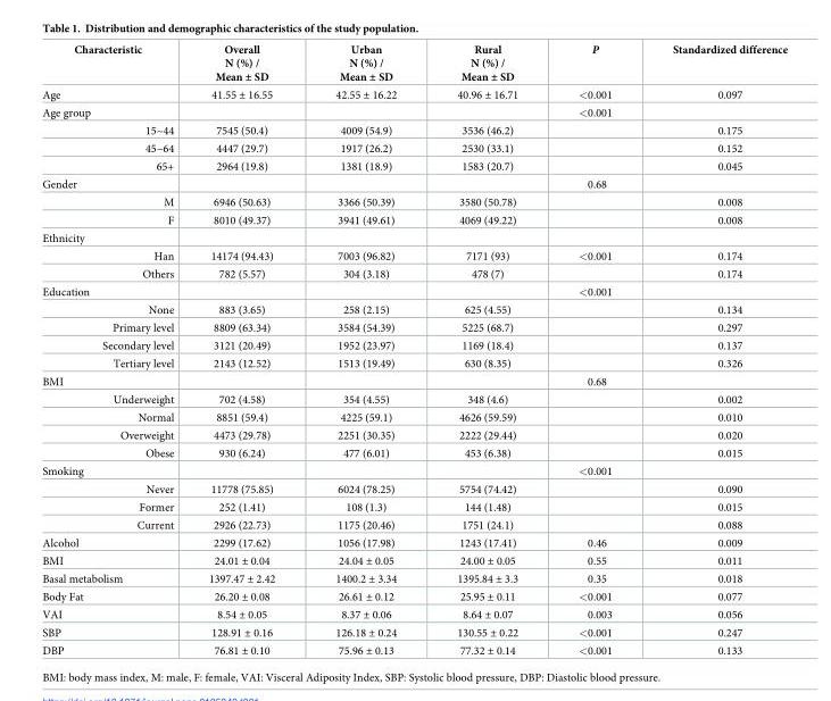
<table><thead><tr><td>Characteristic</td><td>Overall N (%) / Mean ± SD</td><td>Urban N (%) / Mean ± SD</td><td>Rural N (%) / Mean ± SD</td><td>P</td><td>Standardized difference</td></tr></thead><tbody><tr><td>Age</td><td>41.55 ± 16.55</td><td>42.55 ± 16.22</td><td>40.96 ± 16.71</td><td>&lt;0.001</td><td>0.097</td></tr><tr><td>Age group</td><td></td><td></td><td></td><td>&lt;0.001</td><td></td></tr><tr><td>15~44</td><td>7545 (50.4)</td><td>4009 (54.9)</td><td>3536 (46.2)</td><td></td><td>0.175</td></tr><tr><td>45~64</td><td>4447 (29.7)</td><td>1917 (26.2)</td><td>2530 (33.1)</td><td></td><td>0.152</td></tr><tr><td>65+</td><td>2964 (19.8)</td><td>1381 (18.9)</td><td>1583 (20.7)</td><td></td><td>0.045</td></tr><tr><td>Gender</td><td></td><td></td><td></td><td>0.68</td><td></td></tr><tr><td>M</td><td>6946 (50.63)</td><td>3366 (50.39)</td><td>3580 (50.78)</td><td></td><td>0.008</td></tr><tr><td>F</td><td>8010 (49.37)</td><td>3941 (49.61)</td><td>4069 (49.22)</td><td></td><td>0.008</td></tr><tr><td colspan="6">Ethnicity</td></tr><tr><td>Han</td><td>14174 (94.43)</td><td>7003 (96.82)</td><td>7171 (93)</td><td>&lt;0.001</td><td>0.174</td></tr><tr><td>Others</td><td>782 (5.57)</td><td>304 (3.18)</td><td>478 (7)</td><td></td><td>0.174</td></tr><tr><td>Education</td><td></td><td></td><td></td><td>&lt;0.001</td><td></td></tr><tr><td>None</td><td>883 (3.65)</td><td>258 (2.15)</td><td>625 (4.55)</td><td></td><td>0.134</td></tr><tr><td>Primary level</td><td>8809 (63.34)</td><td>3584 (54.39)</td><td>5225 (68.7)</td><td></td><td>0.297</td></tr><tr><td>Secondary level</td><td>3121 (20.49)</td><td>1952 (23.97)</td><td>1169 (18.4)</td><td></td><td>0.137</td></tr><tr><td>Tertiary level</td><td>2143 (12.52)</td><td>1513 (19.49)</td><td>630 (8.35)</td><td></td><td>0.326</td></tr><tr><td>BMI</td><td></td><td></td><td></td><td>0.68</td><td></td></tr><tr><td>Underweight</td><td>702 (4.58)</td><td>354 (4.55)</td><td>348 (4.6)</td><td></td><td>0.002</td></tr><tr><td>Normal</td><td>8851 (59.4)</td><td>4225 (59.1)</td><td>4626 (59.59)</td><td></td><td>0.010</td></tr><tr><td>Overweight</td><td>4473 (29.78)</td><td>2251 (30.35)</td><td>2222 (29.44)</td><td></td><td>0.020</td></tr><tr><td>Obese</td><td>930 (6.24)</td><td>477 (6.01)</td><td>453 (6.38)</td><td></td><td>0.015</td></tr><tr><td>Smoking</td><td></td><td></td><td></td><td>&lt;0.001</td><td></td></tr><tr><td>Never</td><td>11778 (75.85)</td><td>6024 (78.25)</td><td>5754 (74.42)</td><td></td><td>0.090</td></tr><tr><td>Former</td><td>252 (1.41)</td><td>108 (1.3)</td><td>144 (1.48)</td><td></td><td>0.015</td></tr><tr><td>Current</td><td>2926 (22.73)</td><td>1175 (20.46)</td><td>1751 (24.1)</td><td></td><td>0.088</td></tr><tr><td>Alcohol</td><td>2299 (17.62)</td><td>1056 (17.98)</td><td>1243 (17.41)</td><td>0.46</td><td>0.009</td></tr><tr><td>BMI</td><td>24.01 ± 0.04</td><td>24.04 ± 0.05</td><td>24.00 ± 0.05</td><td>0.55</td><td>0.011</td></tr><tr><td>Basal metabolism</td><td>1397.47 ± 2.42</td><td>1400.2 ± 3.34</td><td>1395.84 ± 3.3</td><td>0.35</td><td>0.018</td></tr><tr><td>Body Fat</td><td>26.20 ± 0.08</td><td>26.61 ± 0.12</td><td>25.95 ± 0.11</td><td>&lt;0.001</td><td>0.077</td></tr><tr><td>VAI</td><td>8.54 ± 0.05</td><td>8.37 ± 0.06</td><td>8.64 ± 0.07</td><td>0.003</td><td>0.056</td></tr><tr><td>SBP</td><td>128.91 ± 0.16</td><td>126.18 ± 0.24</td><td>130.55 ± 0.22</td><td>&lt;0.001</td><td>0.247</td></tr><tr><td>DBP</td><td>76.81 ± 0.10</td><td>75.96 ± 0.13</td><td>77.32 ± 0.14</td><td>&lt;0.001</td><td>0.133</td></tr></tbody></table>